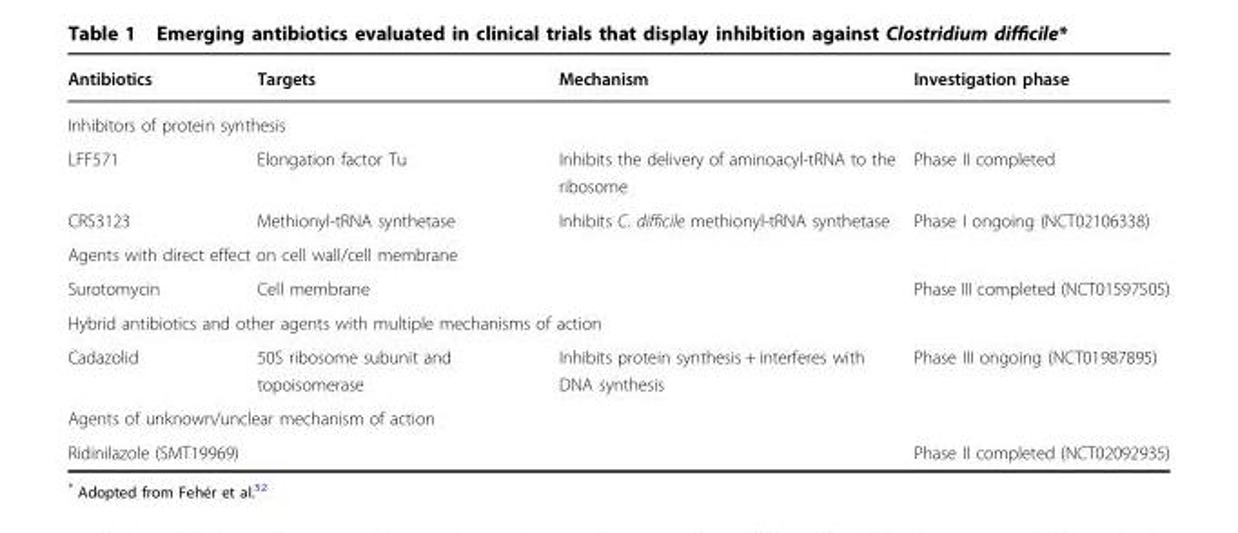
<table><thead><tr><td>Antibiotics</td><td>Targets</td><td>Mechanism</td><td>Investigation phase</td></tr></thead><tbody><tr><td colspan="4">Inhibitors of protein synthesis</td></tr><tr><td>LFF571</td><td>Elongation factor Tu</td><td>Inhibits the delivery of aminoacyl-tRNA to the ribosome</td><td>Phase II completed</td></tr><tr><td>CRS3123</td><td>Methionyl-tRNA synthetase</td><td>Inhibits C. difficile methionyl-tRNA synthetase</td><td>Phase I ongoing (NCT02106338)</td></tr><tr><td colspan="4">Agents with direct effect on cell wall/cell membrane</td></tr><tr><td>Surotomycin</td><td>Cell membrane</td><td></td><td>Phase III completed (NCT01597505)</td></tr><tr><td colspan="4">Hybrid antibiotics and other agents with multiple mechanisms of action</td></tr><tr><td>Cadazolid</td><td>50S ribosome subunit and topoisomerase</td><td>Inhibits protein synthesis + interferes with DNA synthesis</td><td>Phase III ongoing (NCT01987895)</td></tr><tr><td colspan="4">Agents of unknown/unclear mechanism of action</td></tr><tr><td>Ridinilazole (SMT19969)</td><td></td><td></td><td>Phase II completed (NCT02092935)</td></tr></tbody></table>